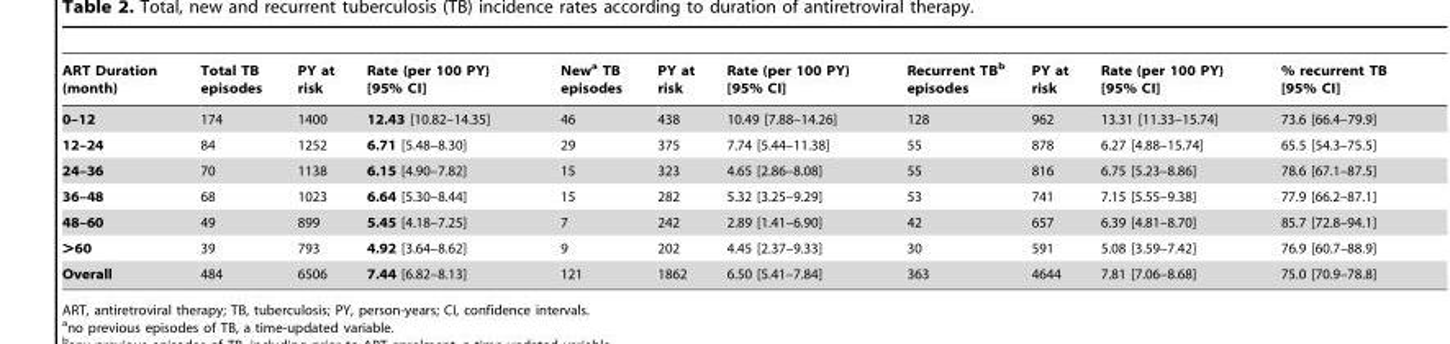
<table><thead><tr><td>ART Duration (month)</td><td>Total TB episodes</td><td>PY at risk</td><td>Rate (per 100 PY) [95% CI]</td><td>New<sup>a</sup> TB episodes</td><td>PY at risk</td><td>Rate (per 100 PY) [95% CI]</td><td>Recurrent TB<sup>b</sup> episodes</td><td>PY at risk</td><td>Rate (per 100 PY) [95% CI]</td><td>% recurrent TB [95% CI]</td></tr></thead><tbody><tr><td>0–12</td><td>174</td><td>1400</td><td>12.43 [10.82–14.35]</td><td>46</td><td>438</td><td>10.49 [7.88–14.26]</td><td>128</td><td>962</td><td>13.31 [11.33–15.74]</td><td>73.6 [66.4–79.9]</td></tr><tr><td>12–24</td><td>84</td><td>1252</td><td>6.71 [5.48–8.30]</td><td>29</td><td>375</td><td>7.74 [5.44–11.38]</td><td>55</td><td>878</td><td>6.27 [4.88–15.74]</td><td>65.5 [54.3–75.5]</td></tr><tr><td>24–36</td><td>70</td><td>1138</td><td>6.15 [4.90–7.82]</td><td>15</td><td>323</td><td>4.65 [2.86–8.08]</td><td>55</td><td>816</td><td>6.75 [5.23–8.86]</td><td>78.6 [67.1–87.5]</td></tr><tr><td>36–48</td><td>68</td><td>1023</td><td>6.64 [5.30–8.44]</td><td>15</td><td>282</td><td>5.32 [3.25–9.29]</td><td>53</td><td>741</td><td>7.15 [5.55–9.38]</td><td>77.9 [66.2–87.1]</td></tr><tr><td>48–60</td><td>49</td><td>899</td><td>5.45 [4.18–7.25]</td><td>7</td><td>242</td><td>2.89 [1.41–6.90]</td><td>42</td><td>657</td><td>6.39 [4.81–8.70]</td><td>85.7 [72.8–94.1]</td></tr><tr><td>&gt;60</td><td>39</td><td>793</td><td>4.92 [3.64–8.62]</td><td>9</td><td>202</td><td>4.45 [2.37–9.33]</td><td>30</td><td>591</td><td>5.08 [3.59–7.42]</td><td>76.9 [60.7–88.9]</td></tr><tr><td>Overall</td><td>484</td><td>6506</td><td>7.44 [6.82–8.13]</td><td>121</td><td>1862</td><td>6.50 [5.41–7.84]</td><td>363</td><td>4644</td><td>7.81 [7.06–8.68]</td><td>75.0 [70.9–78.8]</td></tr></tbody></table>